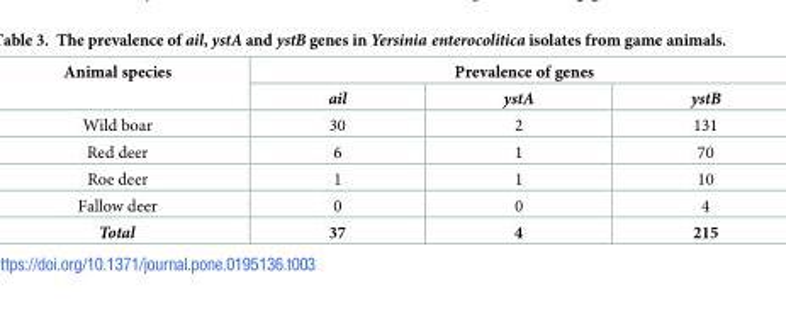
<table><thead><tr><td rowspan="2">Animal species</td><td colspan="3">Prevalence of genes</td></tr><tr><td>ail</td><td>ystA</td><td>ystB</td></tr></thead><tbody><tr><td>Wild boar</td><td>30</td><td>2</td><td>131</td></tr><tr><td>Red deer</td><td>6</td><td>1</td><td>70</td></tr><tr><td>Roe deer</td><td>1</td><td>1</td><td>10</td></tr><tr><td>Fallow deer</td><td>0</td><td>0</td><td>4</td></tr><tr><td>Total</td><td>37</td><td>4</td><td>215</td></tr></tbody></table>